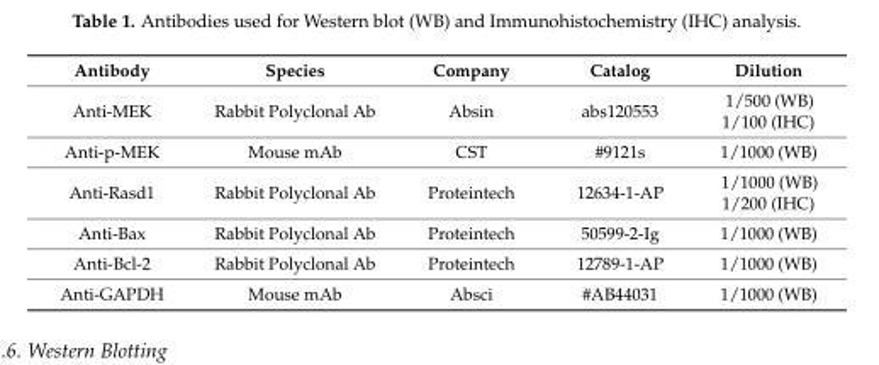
<table><thead><tr><td>Antibody</td><td>Species</td><td>Company</td><td>Catalog</td><td>Dilution</td></tr></thead><tbody><tr><td>Anti-MEK</td><td>Rabbit Polyclonal Ab</td><td>Absin</td><td>abs120553</td><td>1/500 (WB) 1/100 (IHC)</td></tr><tr><td>Anti-p-MEK</td><td>Mouse mAb</td><td>CST</td><td>#9121s</td><td>1/1000 (WB)</td></tr><tr><td>Anti-Rasd1</td><td>Rabbit Polyclonal Ab</td><td>Proteintech</td><td>12634-1-AP</td><td>1/1000 (WB) 1/200 (IHC)</td></tr><tr><td>Anti-Bax</td><td>Rabbit Polyclonal Ab</td><td>Proteintech</td><td>50599-2-Ig</td><td>1/1000 (WB)</td></tr><tr><td>Anti-Bcl-2</td><td>Rabbit Polyclonal Ab</td><td>Proteintech</td><td>12789-1-AP</td><td>1/1000 (WB)</td></tr><tr><td>Anti-GAPDH</td><td>Mouse mAb</td><td>Absci</td><td>#AB44031</td><td>1/1000 (WB)</td></tr></tbody></table>